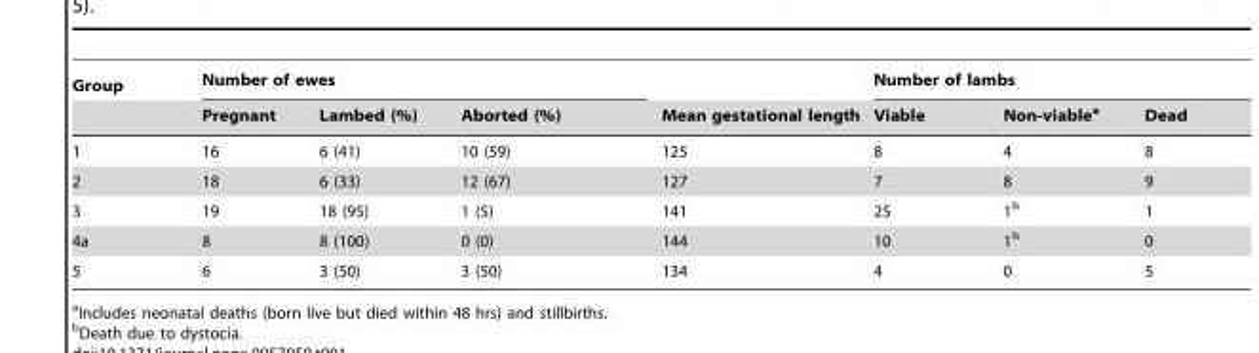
<table><thead><tr><td rowspan="2">Group</td><td colspan="3">Number of ewes</td><td rowspan="2">Mean gestational length</td><td colspan="3">Number of lambs</td></tr><tr><td>Pregnant</td><td>Lambed (%)</td><td>Aborted (%)</td><td>Viable</td><td>Non-viable<sup>a</sup></td><td>Dead</td></tr></thead><tbody><tr><td>1</td><td>16</td><td>6 (41)</td><td>10 (59)</td><td>125</td><td>8</td><td>4</td><td>8</td></tr><tr><td>2</td><td>18</td><td>6 (33)</td><td>12 (67)</td><td>127</td><td>7</td><td>8</td><td>9</td></tr><tr><td>3</td><td>19</td><td>18 (95)</td><td>1 (5)</td><td>141</td><td>25</td><td>1<sup>b</sup></td><td>1</td></tr><tr><td>4a</td><td>8</td><td>8 (100)</td><td>0 (0)</td><td>144</td><td>10</td><td>1<sup>b</sup></td><td>0</td></tr><tr><td>5</td><td>6</td><td>3 (50)</td><td>3 (50)</td><td>134</td><td>4</td><td>0</td><td>5</td></tr></tbody></table>